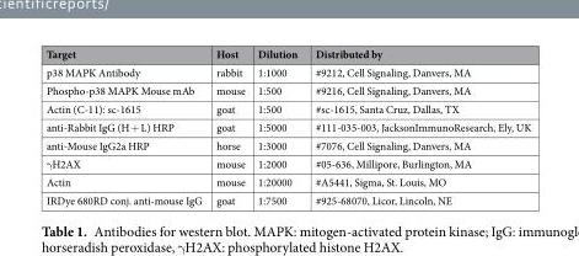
<table><thead><tr><td>Target</td><td>Host</td><td>Dilution</td><td>Distributed by</td></tr></thead><tbody><tr><td>p38 MAPK Antibody</td><td>rabbit</td><td>1:1000</td><td>#9212, Cell Signaling, Danvers, MA</td></tr><tr><td>Phospho-p38 MAPK Mouse mAb</td><td>mouse</td><td>1:500</td><td>#9216, Cell Signaling, Danvers, MA</td></tr><tr><td>Actin (C-11): sc-1615</td><td>goat</td><td>1:500</td><td>#sc-1615, Santa Cruz, Dallas, TX</td></tr><tr><td>anti-Rabbit IgG (H + L) HRP</td><td>goat</td><td>1:5000</td><td>#111-035-003, JacksonImmunoResearch, Ely, UK</td></tr><tr><td>anti-Mouse IgG2a HRP</td><td>horse</td><td>1:3000</td><td>#7076, Cell Signaling, Danvers, MA</td></tr><tr><td>γH2AX</td><td>mouse</td><td>1:2000</td><td>#05-636, Millipore, Burlington, MA</td></tr><tr><td>Actin</td><td>mouse</td><td>1:20000</td><td>#A5441, Sigma, St. Louis, MO</td></tr><tr><td>IRDye 680RD conj. anti-mouse IgG</td><td>goat</td><td>1:7500</td><td>#925-68070, Licor, Lincoln, NE</td></tr></tbody></table>